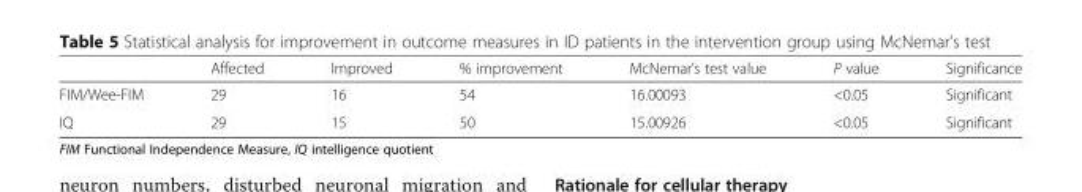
<table><thead><tr><td></td><td>Affected</td><td>Improved</td><td>% improvement</td><td>McNemar’s test value</td><td>P value</td><td>Significance</td></tr></thead><tbody><tr><td>FIM/Wee-FIM</td><td>29</td><td>16</td><td>54</td><td>16.00093</td><td>&lt;0.05</td><td>Significant</td></tr><tr><td>IQ</td><td>29</td><td>15</td><td>50</td><td>15.00926</td><td>&lt;0.05</td><td>Significant</td></tr></tbody></table>